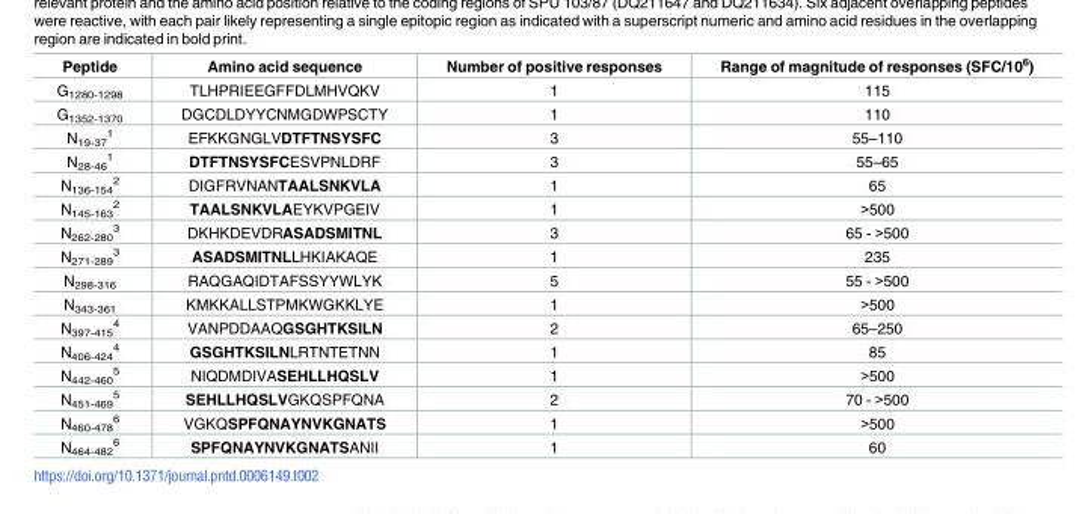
<table><thead><tr><td>Peptide</td><td>Amino acid sequence</td><td>Number of positive responses</td><td>Range of magnitude of responses (SFC/10<sup>6</sup>)</td></tr></thead><tbody><tr><td>G<sub>1280-1298</sub></td><td>TLHPRIEEGFFDLMHVQKV</td><td>1</td><td>115</td></tr><tr><td>G<sub>1352-1370</sub></td><td>DGCDLDYYCNMGDWPSCTY</td><td>1</td><td>110</td></tr><tr><td>N<sub>19-37</sub> <sup>1</sup></td><td>EFKKGNGLVDTFTNSYSFC</td><td>3</td><td>55–110</td></tr><tr><td>N<sub>28-46</sub> <sup>1</sup></td><td>DTFTNSYSFCESVPNLDRF</td><td>3</td><td>55–65</td></tr><tr><td>N<sub>136-154</sub> <sup>2</sup></td><td>DIGFRVNANTAALSNKVLA</td><td>1</td><td>65</td></tr><tr><td>N<sub>145-163</sub> <sup>2</sup></td><td>TAALSNKVLAEYKVPGEIV</td><td>1</td><td>&gt;500</td></tr><tr><td>N<sub>262-280</sub> <sup>3</sup></td><td>DKHKDEVDRASADSMITNL</td><td>3</td><td>65 - &gt;500</td></tr><tr><td>N<sub>271-289</sub> <sup>3</sup></td><td>ASADSMITNLLHKIAKAQE</td><td>1</td><td>235</td></tr><tr><td>N<sub>298-316</sub></td><td>RAQGAQIDTAFSSYYWLYK</td><td>5</td><td>55 - &gt;500</td></tr><tr><td>N<sub>343-361</sub></td><td>KMKKALLSTPMKWGKKLYE</td><td>1</td><td>&gt;500</td></tr><tr><td>N<sub>397-415</sub> <sup>4</sup></td><td>VANPDDAAQGSGHTKSILN</td><td>2</td><td>65–250</td></tr><tr><td>N<sub>406-424</sub> <sup>4</sup></td><td>GSGHTKSILNLRTNTETNN</td><td>1</td><td>85</td></tr><tr><td>N<sub>442-460</sub> <sup>5</sup></td><td>NIQDMDIVASEHLLHQSLV</td><td>1</td><td>&gt;500</td></tr><tr><td>N<sub>451-469</sub> <sup>5</sup></td><td>SEHLLHQSLVGKQSPFQNA</td><td>2</td><td>70 - &gt;500</td></tr><tr><td>N<sub>460-478</sub> <sup>6</sup></td><td>VGKQSPFQNAYNVKGNATS</td><td>1</td><td>&gt;500</td></tr><tr><td>N<sub>464-482</sub> <sup>6</sup></td><td>SPFQNAYNVKGNATSANII</td><td>1</td><td>60</td></tr></tbody></table>